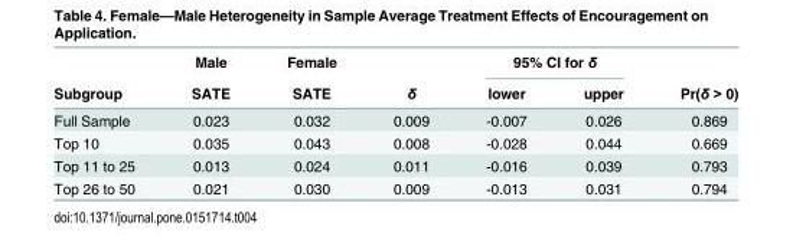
<table><thead><tr><td rowspan="2">Subgroup</td><td rowspan="2">Male SATE</td><td rowspan="2">Female SATE</td><td rowspan="2">δ</td><td colspan="2">95% CI for δ</td><td rowspan="2">Pr(δ &gt; 0)</td></tr><tr><td>lower</td><td>upper</td></tr></thead><tbody><tr><td>Full Sample</td><td>0.023</td><td>0.032</td><td>0.009</td><td>-0.007</td><td>0.026</td><td>0.869</td></tr><tr><td>Top 10</td><td>0.035</td><td>0.043</td><td>0.008</td><td>-0.028</td><td>0.044</td><td>0.669</td></tr><tr><td>Top 11 to 25</td><td>0.013</td><td>0.024</td><td>0.011</td><td>-0.016</td><td>0.039</td><td>0.793</td></tr><tr><td>Top 26 to 50</td><td>0.021</td><td>0.030</td><td>0.009</td><td>-0.013</td><td>0.031</td><td>0.794</td></tr></tbody></table>